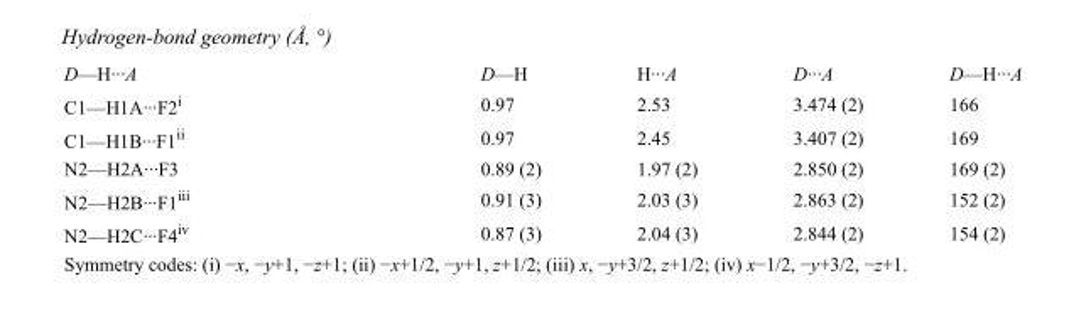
<table><tbody><tr><td>D—H···A</td><td>D—H</td><td>H···A</td><td>D···A</td><td>D—H···A</td></tr><tr><td>C1—H1A···F2<sup>i</sup></td><td>0.97</td><td>2.53</td><td>3.474 (2)</td><td>166</td></tr><tr><td>C1—H1B···F1<sup>ii</sup></td><td>0.97</td><td>2.45</td><td>3.407 (2)</td><td>169</td></tr><tr><td>N2—H2A···F3</td><td>0.89 (2)</td><td>1.97 (2)</td><td>2.850 (2)</td><td>169 (2)</td></tr><tr><td>N2—H2B···F1<sup>iii</sup></td><td>0.91 (3)</td><td>2.03 (3)</td><td>2.863 (2)</td><td>152 (2)</td></tr><tr><td>N2—H2C···F4<sup>iv</sup></td><td>0.87 (3)</td><td>2.04 (3)</td><td>2.844 (2)</td><td>154 (2)</td></tr></tbody></table>